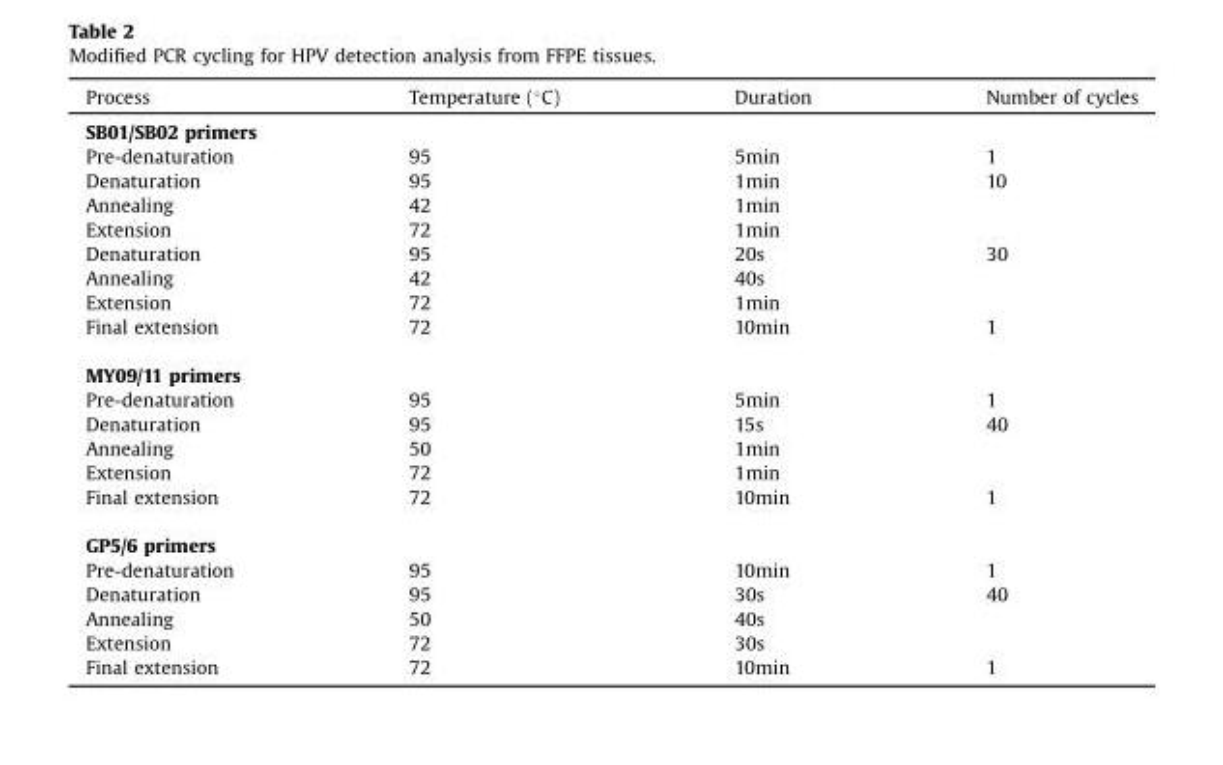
<table><thead><tr><td>Process</td><td>Temperature (°C)</td><td>Duration</td><td>Number of cycles</td></tr></thead><tbody><tr><td colspan="4">SB01/SB02 primers</td></tr><tr><td>Pre-denaturation</td><td>95</td><td>5min</td><td>1</td></tr><tr><td>Denaturation</td><td>95</td><td>1min</td><td rowspan="3">10</td></tr><tr><td>Annealing</td><td>42</td><td>1min</td></tr><tr><td>Extension</td><td>72</td><td>1min</td></tr><tr><td>Denaturation</td><td>95</td><td>20s</td><td rowspan="3">30</td></tr><tr><td>Annealing</td><td>42</td><td>40s</td></tr><tr><td>Extension</td><td>72</td><td>1min</td></tr><tr><td>Final extension</td><td>72</td><td>10min</td><td>1</td></tr><tr><td colspan="4">MY09/11 primers</td></tr><tr><td>Pre-denaturation</td><td>95</td><td>5min</td><td>1</td></tr><tr><td>Denaturation</td><td>95</td><td>15s</td><td rowspan="3">40</td></tr><tr><td>Annealing</td><td>50</td><td>1min</td></tr><tr><td>Extension</td><td>72</td><td>1min</td></tr><tr><td>Final extension</td><td>72</td><td>10min</td><td>1</td></tr><tr><td colspan="4">GP5/6 primers</td></tr><tr><td>Pre-denaturation</td><td>95</td><td>10min</td><td>1</td></tr><tr><td>Denaturation</td><td>95</td><td>30s</td><td rowspan="3">40</td></tr><tr><td>Annealing</td><td>50</td><td>40s</td></tr><tr><td>Extension</td><td>72</td><td>30s</td></tr><tr><td>Final extension</td><td>72</td><td>10min</td><td>1</td></tr></tbody></table>